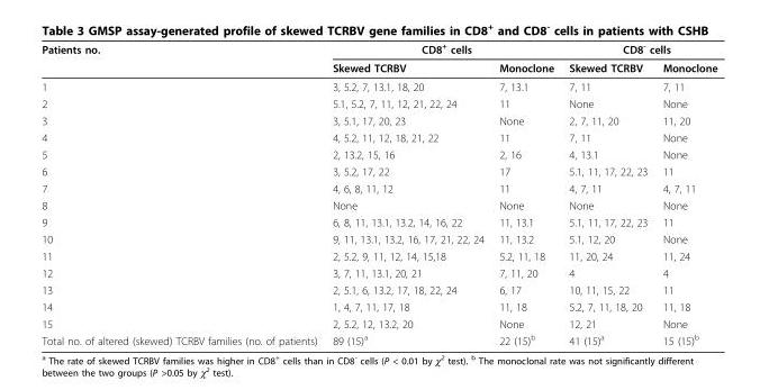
<table><thead><tr><td rowspan="2">Patients no.</td><td colspan="2">CD8<sup>+</sup> cells</td><td colspan="2">CD8<sup>-</sup> cells</td></tr><tr><td>Skewed TCRBV</td><td>Monoclone</td><td>Skewed TCRBV</td><td>Monoclone</td></tr></thead><tbody><tr><td>1</td><td>3, 5.2, 7, 13.1, 18, 20</td><td>7, 13.1</td><td>7, 11</td><td>7, 11</td></tr><tr><td>2</td><td>5.1, 5.2, 7, 11, 12, 21, 22, 24</td><td>11</td><td>None</td><td>None</td></tr><tr><td>3</td><td>3, 5.1, 17, 20, 23</td><td>None</td><td>2, 7, 11, 20</td><td>11, 20</td></tr><tr><td>4</td><td>4, 5.2, 11, 12, 18, 21, 22</td><td>11</td><td>7, 11</td><td>None</td></tr><tr><td>5</td><td>2, 13.2, 15, 16</td><td>2, 16</td><td>4, 13.1</td><td>None</td></tr><tr><td>6</td><td>3, 5.2, 17, 22</td><td>17</td><td>5.1, 11, 17, 22, 23</td><td>11</td></tr><tr><td>7</td><td>4, 6, 8, 11, 12</td><td>11</td><td>4, 7, 11</td><td>4, 7, 11</td></tr><tr><td>8</td><td>None</td><td>None</td><td>None</td><td>None</td></tr><tr><td>9</td><td>6, 8, 11, 13.1, 13.2, 14, 16, 22</td><td>11, 13.1</td><td>5.1, 11, 17, 22, 23</td><td>11</td></tr><tr><td>10</td><td>9, 11, 13.1, 13.2, 16, 17, 21, 22, 24</td><td>11, 13.2</td><td>5.1, 12, 20</td><td>None</td></tr><tr><td>11</td><td>2, 5.2, 9, 11, 12, 14, 15,18</td><td>5.2, 11, 18</td><td>11, 20, 24</td><td>11, 24</td></tr><tr><td>12</td><td>3, 7, 11, 13.1, 20, 21</td><td>7, 11, 20</td><td>4</td><td>4</td></tr><tr><td>13</td><td>2, 5.1, 6, 13.2, 17, 18, 22, 24</td><td>6, 17</td><td>10, 11, 15, 22</td><td>11</td></tr><tr><td>14</td><td>1, 4, 7, 11, 17, 18</td><td>11, 18</td><td>5.2, 7, 11, 18, 20</td><td>11, 18</td></tr><tr><td>15</td><td>2, 5.2, 12, 13.2, 20</td><td>None</td><td>12, 21</td><td>None</td></tr><tr><td>Total no. of altered (skewed) TCRBV families (no. of patients)</td><td>89 (15)<sup>a</sup></td><td>22 (15)<sup>b</sup></td><td>41 (15)<sup>a</sup></td><td>15 (15)<sup>b</sup></td></tr></tbody></table>